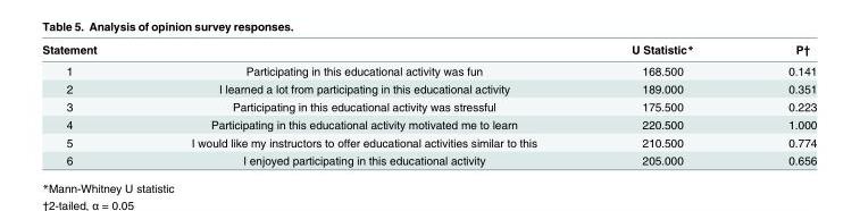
<table><thead><tr><td>Statement</td><td></td><td>U Statistic*</td><td>P†</td></tr></thead><tbody><tr><td>1</td><td>Participating in this educational activity was fun</td><td>168.500</td><td>0.141</td></tr><tr><td>2</td><td>I learned a lot from participating in this educational activity</td><td>189.000</td><td>0.351</td></tr><tr><td>3</td><td>Participating in this educational activity was stressful</td><td>175.500</td><td>0.223</td></tr><tr><td>4</td><td>Participating in this educational activity motivated me to learn</td><td>220.500</td><td>1.000</td></tr><tr><td>5</td><td>I would like my instructors to offer educational activities similar to this</td><td>210.500</td><td>0.774</td></tr><tr><td>6</td><td>I enjoyed participating in this educational activity</td><td>205.000</td><td>0.656</td></tr></tbody></table>